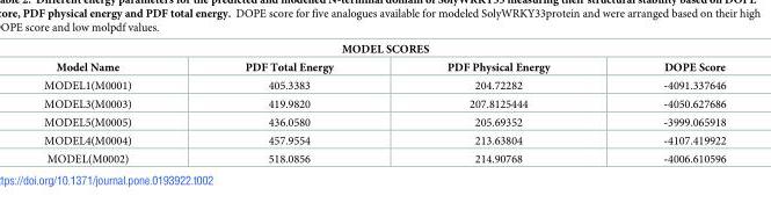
<table><thead><tr><td colspan="4">MODEL SCORES</td></tr><tr><td>Model Name</td><td>PDF Total Energy</td><td>PDF Physical Energy</td><td>DOPE Score</td></tr></thead><tbody><tr><td>MODEL1(M0001)</td><td>405.3383</td><td>204.72282</td><td>-4091.337646</td></tr><tr><td>MODEL3(M0003)</td><td>419.9820</td><td>207.8125444</td><td>-4050.627686</td></tr><tr><td>MODEL5(M0005)</td><td>436.0580</td><td>205.69352</td><td>-3999.065918</td></tr><tr><td>MODEL4(M0004)</td><td>457.9554</td><td>213.63804</td><td>-4107.419922</td></tr><tr><td>MODEL(M0002)</td><td>518.0856</td><td>214.90768</td><td>-4006.610596</td></tr></tbody></table>